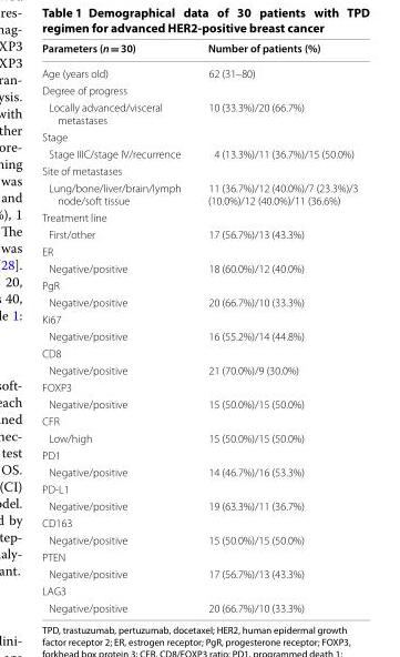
<table><thead><tr><td>Parameters (n = 30)</td><td>Number of patients (%)</td></tr></thead><tbody><tr><td>Age (years old)</td><td>62 (31–80)</td></tr><tr><td colspan="2">Degree of progress</td></tr><tr><td>Locally advanced/visceral metastases</td><td>10 (33.3%)/20 (66.7%)</td></tr><tr><td colspan="2">Stage</td></tr><tr><td>Stage IIIC/stage IV/recurrence</td><td>4 (13.3%)/11 (36.7%)/15 (50.0%)</td></tr><tr><td colspan="2">Site of metastases</td></tr><tr><td>Lung/bone/liver/brain/lymph node/soft tissue</td><td>11 (36.7%)/12 (40.0%)/7 (23.3%)/3 (10.0%)/12 (40.0%)/11 (36.6%)</td></tr><tr><td colspan="2">Treatment line</td></tr><tr><td>First/other</td><td>17 (56.7%)/13 (43.3%)</td></tr><tr><td colspan="2">ER</td></tr><tr><td>Negative/positive</td><td>18 (60.0%)/12 (40.0%)</td></tr><tr><td colspan="2">PgR</td></tr><tr><td>Negative/positive</td><td>20 (66.7%)/10 (33.3%)</td></tr><tr><td colspan="2">Ki67</td></tr><tr><td>Negative/positive</td><td>16 (55.2%)/14 (44.8%)</td></tr><tr><td colspan="2">CD8</td></tr><tr><td>Negative/positive</td><td>21 (70.0%)/9 (30.0%)</td></tr><tr><td colspan="2">FOXP3</td></tr><tr><td>Negative/positive</td><td>15 (50.0%)/15 (50.0%)</td></tr><tr><td colspan="2">CFR</td></tr><tr><td>Low/high</td><td>15 (50.0%)/15 (50.0%)</td></tr><tr><td colspan="2">PD1</td></tr><tr><td>Negative/positive</td><td>14 (46.7%)/16 (53.3%)</td></tr><tr><td colspan="2">PD-L1</td></tr><tr><td>Negative/positive</td><td>19 (63.3%)/11 (36.7%)</td></tr><tr><td colspan="2">CD163</td></tr><tr><td>Negative/positive</td><td>15 (50.0%)/15 (50.0%)</td></tr><tr><td colspan="2">PTEN</td></tr><tr><td>Negative/positive</td><td>17 (56.7%)/13 (43.3%)</td></tr><tr><td colspan="2">LAG3</td></tr><tr><td>Negative/positive</td><td>20 (66.7%)/10 (33.3%)</td></tr></tbody></table>